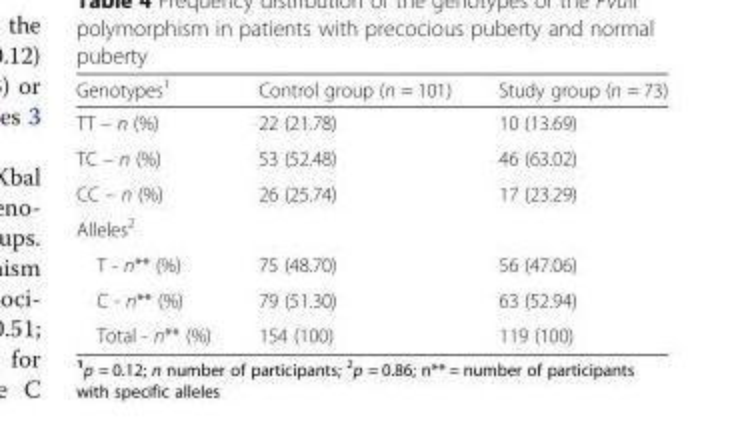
<table><thead><tr><td>Genotypes<sup>1</sup></td><td>Control group (n = 101)</td><td>Study group (n = 73)</td></tr></thead><tbody><tr><td>TT – n (%)</td><td>22 (21.78)</td><td>10 (13.69)</td></tr><tr><td>TC – n (%)</td><td>53 (52.48)</td><td>46 (63.02)</td></tr><tr><td>CC – n (%)</td><td>26 (25.74)</td><td>17 (23.29)</td></tr><tr><td colspan="3">Alleles<sup>2</sup></td></tr><tr><td>T - n** (%)</td><td>75 (48.70)</td><td>56 (47.06)</td></tr><tr><td>C - n** (%)</td><td>79 (51.30)</td><td>63 (52.94)</td></tr><tr><td>Total - n** (%)</td><td>154 (100)</td><td>119 (100)</td></tr></tbody></table>